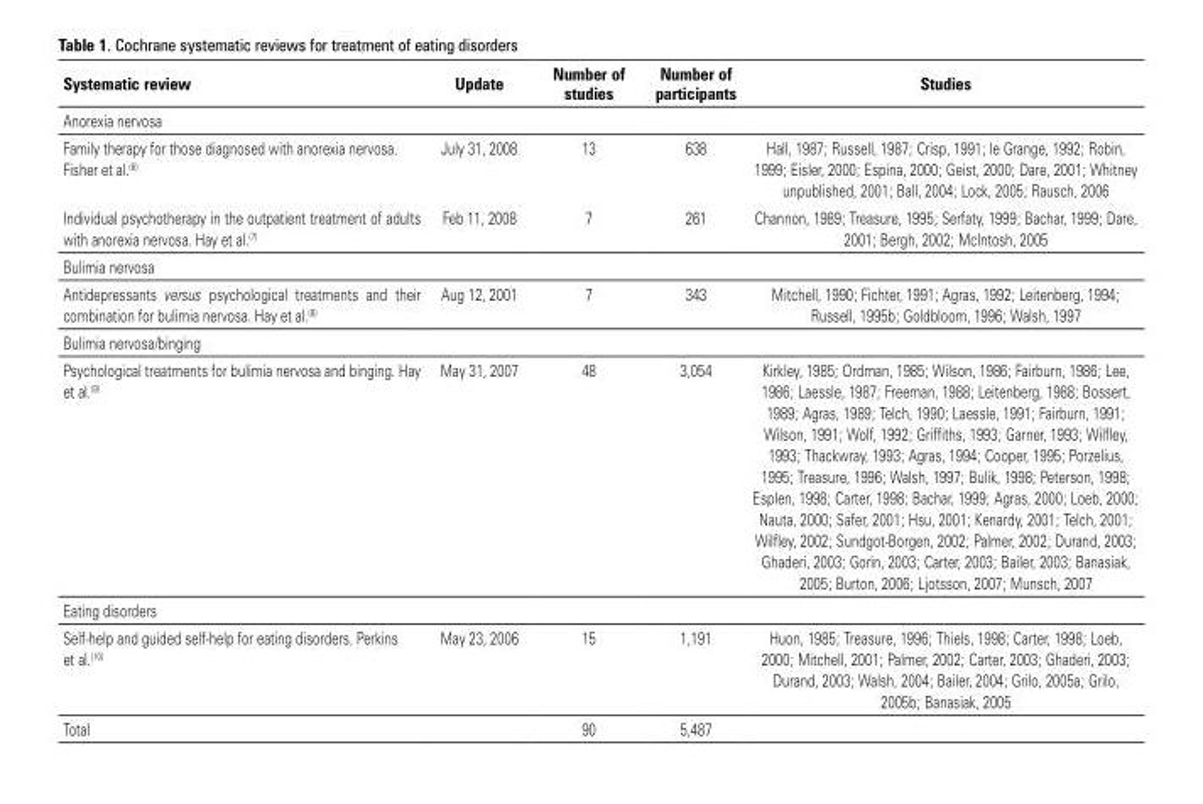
<table><thead><tr><td>Systematic review</td><td>Update</td><td>Number of studies</td><td>Number of participants</td><td>Studies</td></tr></thead><tbody><tr><td colspan="5">Anorexia nervosa</td></tr><tr><td>Family therapy for those diagnosed with anorexia nervosa. Fisher et al.<sup>(6)</sup></td><td>July 31, 2008</td><td>13</td><td>638</td><td>Hall, 1987; Russell, 1987; Crisp, 1991; le Grange, 1992; Robin, 1999; Eisler, 2000; Espina, 2000; Geist, 2000; Dare, 2001; Whitney unpublished, 2001; Ball, 2004; Lock, 2005; Rausch, 2006</td></tr><tr><td>Individual psychotherapy in the outpatient treatment of adults with anorexia nervosa. Hay et al.<sup>(7)</sup></td><td>Feb 11, 2008</td><td>7</td><td>261</td><td>Channon, 1989; Treasure, 1995; Serfaty, 1999; Bachar, 1999; Dare, 2001; Bergh, 2002; McIntosh, 2005</td></tr><tr><td colspan="5">Bulimia nervosa</td></tr><tr><td>Antidepressants versus psychological treatments and their combination for bulimia nervosa. Hay et al.<sup>(8)</sup></td><td>Aug 12, 2001</td><td>7</td><td>343</td><td>Mitchell, 1990; Fichter, 1991; Agras, 1992; Leitenberg, 1994; Russell, 1995b; Goldbloom, 1996; Walsh, 1997</td></tr><tr><td colspan="5">Bulimia nervosa/binging</td></tr><tr><td>Psychological treatments for bulimia nervosa and binging. Hay et al.<sup>(9)</sup></td><td>May 31, 2007</td><td>48</td><td>3,054</td><td>Kirkley, 1985; Ordman, 1985; Wilson, 1986; Fairburn, 1986; Lee, 1986; Laessle, 1987; Freeman, 1988; Leitenberg, 1988; Bossert, 1989; Agras, 1989; Telch, 1990; Laessle, 1991; Fairburn, 1991; Wilson, 1991; Wolf, 1992; Griffiths, 1993; Garner, 1993; Wilfley, 1993; Thackwray, 1993; Agras, 1994; Cooper, 1995; Porzelius, 1995; Treasure, 1996; Walsh, 1997; Bulik, 1998; Peterson, 1998; Esplen, 1998; Carter, 1998; Bachar, 1999; Agras, 2000; Loeb, 2000; Nauta, 2000; Safer, 2001; Hsu, 2001; Kenardy, 2001; Telch, 2001; Wilfley, 2002; Sundgot-Borgen, 2002; Palmer, 2002; Durand, 2003; Ghaderi, 2003; Gorin, 2003; Carter, 2003; Bailer, 2003; Banasiak, 2005; Burton, 2006; Ljotsson, 2007; Munsch, 2007</td></tr><tr><td colspan="5">Eating disorders</td></tr><tr><td>Self-help and guided self-help for eating disorders. Perkins et al.<sup>(10)</sup></td><td>May 23, 2006</td><td>15</td><td>1,191</td><td>Huon, 1985; Treasure, 1996; Thiels, 1998; Carter, 1998; Loeb, 2000; Mitchell, 2001; Palmer, 2002; Carter, 2003; Ghaderi, 2003; Durand, 2003; Walsh, 2004; Bailer, 2004; Grilo, 2005a; Grilo, 2005b; Banasiak, 2005</td></tr><tr><td>Total</td><td></td><td>90</td><td>5,487</td><td></td></tr></tbody></table>